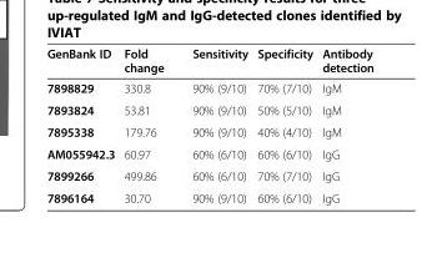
<table><thead><tr><td>GenBank ID</td><td>Fold change</td><td>Sensitivity</td><td>Specificity</td><td>Antibody detection</td></tr></thead><tbody><tr><td>7898829</td><td>330.8</td><td>90% (9/10)</td><td>70% (7/10)</td><td>IgM</td></tr><tr><td>7893824</td><td>53.81</td><td>90% (9/10)</td><td>50% (5/10)</td><td>IgM</td></tr><tr><td>7895338</td><td>179.76</td><td>90% (9/10)</td><td>40% (4/10)</td><td>IgM</td></tr><tr><td>AM055942.3</td><td>60.97</td><td>60% (6/10)</td><td>60% (6/10)</td><td>IgG</td></tr><tr><td>7899266</td><td>499.86</td><td>60% (6/10)</td><td>70% (7/10)</td><td>IgG</td></tr><tr><td>7896164</td><td>30.70</td><td>90% (9/10)</td><td>60% (6/10)</td><td>IgG</td></tr></tbody></table>